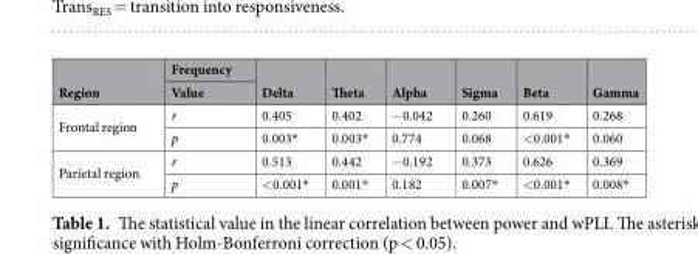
<table><thead><tr><td rowspan="2">Region</td><td rowspan="2">Frequency Value</td><td rowspan="2">Delta</td><td rowspan="2">Theta</td><td rowspan="2">Alpha</td><td rowspan="2">Sigma</td><td rowspan="2">Beta</td><td rowspan="2">Gamma</td></tr><tr></tr></thead><tbody><tr><td rowspan="2">Frontal region</td><td>r</td><td>0.405</td><td>0.402</td><td>−0.042</td><td>0.260</td><td>0.619</td><td>0.268</td></tr><tr><td>p</td><td>0.003*</td><td>0.003*</td><td>0.774</td><td>0.068</td><td>&lt;0.001*</td><td>0.060</td></tr><tr><td rowspan="2">Parietal region</td><td>r</td><td>0.513</td><td>0.442</td><td>−0.192</td><td>0.373</td><td>0.626</td><td>0.369</td></tr><tr><td>p</td><td>&lt;0.001*</td><td>0.001*</td><td>0.182</td><td>0.007*</td><td>&lt;0.001*</td><td>0.008*</td></tr></tbody></table>